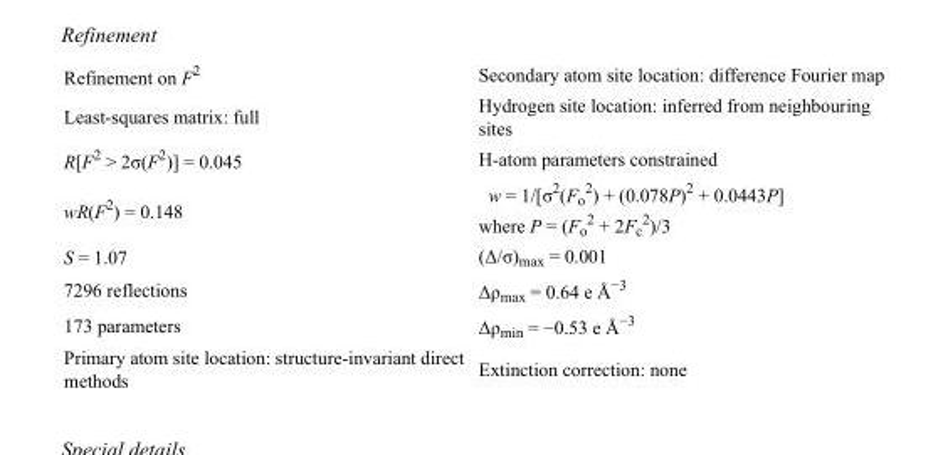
<table><tbody><tr><td>Refinement on F<sup>2</sup></td><td>Secondary atom site location: difference Fourier map</td></tr><tr><td>Least-squares matrix: full</td><td>Hydrogen site location: inferred from neighbouring sites</td></tr><tr><td>R[F<sup>2</sup> &gt; 2σ(F<sup>2</sup>)] = 0.045</td><td>H-atom parameters constrained</td></tr><tr><td>wR(F<sup>2</sup>) = 0.148</td><td>w = 1/[σ<sup>2</sup>(F<sub>o</sub> <sup>2</sup>) + (0.078P)<sup>2</sup> + 0.0443P] where P = (F<sub>o</sub> <sup>2</sup> + 2F<sub>c</sub> <sup>2</sup>)/3</td></tr><tr><td>S = 1.07</td><td>(Δ/σ)<sub>max</sub> = 0.001</td></tr><tr><td>7296 reflections</td><td>Δρ<sub>max</sub> = 0.64 e Å<sup>−3</sup></td></tr><tr><td>173 parameters</td><td>Δρ<sub>min</sub> = −0.53 e Å<sup>−3</sup></td></tr><tr><td>Primary atom site location: structure-invariant direct methods</td><td>Extinction correction: none</td></tr></tbody></table>